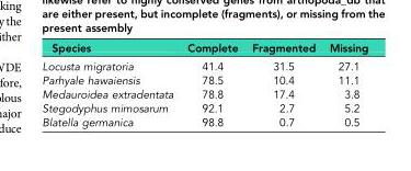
<table><thead><tr><td>Species</td><td>Complete</td><td>Fragmented</td><td>Missing</td></tr></thead><tbody><tr><td>Locusta migratoria</td><td>41.4</td><td>31.5</td><td>27.1</td></tr><tr><td>Parhyale hawaiensis</td><td>78.5</td><td>10.4</td><td>11.1</td></tr><tr><td>Medauroidea extradentata</td><td>78.8</td><td>17.4</td><td>3.8</td></tr><tr><td>Stegodyphus mimosarum</td><td>92.1</td><td>2.7</td><td>5.2</td></tr><tr><td>Blatella germanica</td><td>98.8</td><td>0.7</td><td>0.5</td></tr></tbody></table>